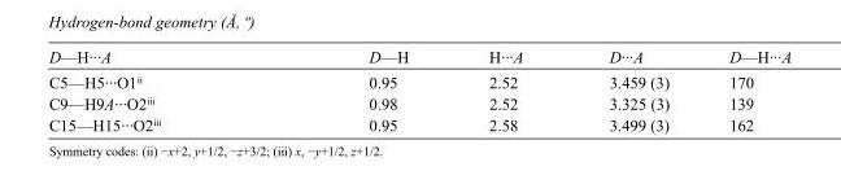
<table><tbody><tr><td>D—H···A</td><td>D—H</td><td>H···A</td><td>D···A</td><td>D—H···A</td></tr><tr><td>C5—H5···O1<sup>ii</sup></td><td>0.95</td><td>2.52</td><td>3.459 (3)</td><td>170</td></tr><tr><td>C9—H9A···O2<sup>iii</sup></td><td>0.98</td><td>2.52</td><td>3.325 (3)</td><td>139</td></tr><tr><td>C15—H15···O2<sup>iii</sup></td><td>0.95</td><td>2.58</td><td>3.499 (3)</td><td>162</td></tr></tbody></table>